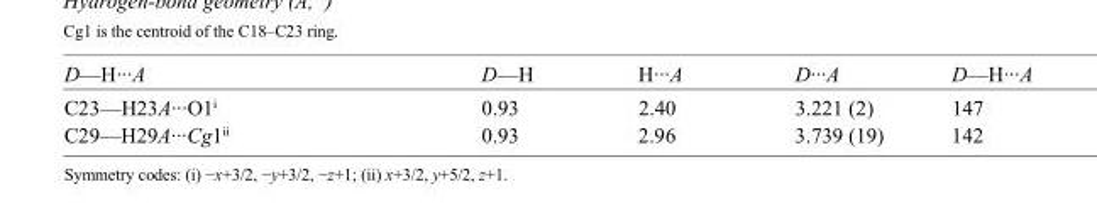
<table><tbody><tr><td>D—H···A</td><td>D—H</td><td>H···A</td><td>D···A</td><td>D—H···A</td></tr><tr><td>C23—H23A···O1<sup>i</sup></td><td>0.93</td><td>2.40</td><td>3.221 (2)</td><td>147</td></tr><tr><td>C29—H29A···Cg1<sup>ii</sup></td><td>0.93</td><td>2.96</td><td>3.739 (19)</td><td>142</td></tr></tbody></table>